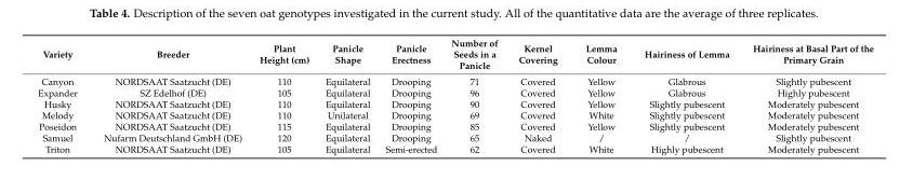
<table><thead><tr><td>Variety</td><td>Breeder</td><td>Plant Height (cm)</td><td>Panicle Shape</td><td>Panicle Erectness</td><td>Number of Seeds in a Panicle</td><td>Kernel Covering</td><td>Lemma Colour</td><td>Hairiness of Lemma</td><td>Hairiness at Basal Part of the Primary Grain</td></tr></thead><tbody><tr><td>Canyon</td><td>NORDSAAT Saatzucht (DE)</td><td>110</td><td>Equilateral</td><td>Drooping</td><td>71</td><td>Covered</td><td>Yellow</td><td>Glabrous</td><td>Slightly pubescent</td></tr><tr><td>Expander</td><td>SZ Edelhof (DE)</td><td>105</td><td>Equilateral</td><td>Drooping</td><td>96</td><td>Covered</td><td>Yellow</td><td>Glabrous</td><td>Highly pubescent</td></tr><tr><td>Husky</td><td>NORDSAAT Saatzucht (DE)</td><td>110</td><td>Equilateral</td><td>Drooping</td><td>90</td><td>Covered</td><td>Yellow</td><td>Slightly pubescent</td><td>Moderately pubescent</td></tr><tr><td>Melody</td><td>NORDSAAT Saatzucht (DE)</td><td>110</td><td>Unilateral</td><td>Drooping</td><td>69</td><td>Covered</td><td>White</td><td>Slightly pubescent</td><td>Moderately pubescent</td></tr><tr><td>Poseidon</td><td>NORDSAAT Saatzucht (DE)</td><td>115</td><td>Equilateral</td><td>Drooping</td><td>85</td><td>Covered</td><td>Yellow</td><td>Slightly pubescent</td><td>Moderately pubescent</td></tr><tr><td>Samuel</td><td>Nufarm Deutschland GmbH (DE)</td><td>120</td><td>Equilateral</td><td>Drooping</td><td>65</td><td>Naked</td><td>/</td><td>/</td><td>Slightly pubescent</td></tr><tr><td>Triton</td><td>NORDSAAT Saatzucht (DE)</td><td>105</td><td>Equilateral</td><td>Semi-erected</td><td>62</td><td>Covered</td><td>White</td><td>Highly pubescent</td><td>Moderately pubescent</td></tr></tbody></table>